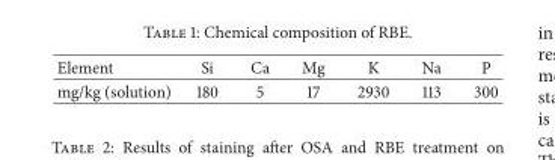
<table><thead><tr><td>Element</td><td>Si</td><td>Ca</td><td>Mg</td><td>K</td><td>Na</td><td>P</td></tr></thead><tbody><tr><td>mg/kg (solution)</td><td>180</td><td>5</td><td>17</td><td>2930</td><td>113</td><td>300</td></tr></tbody></table>